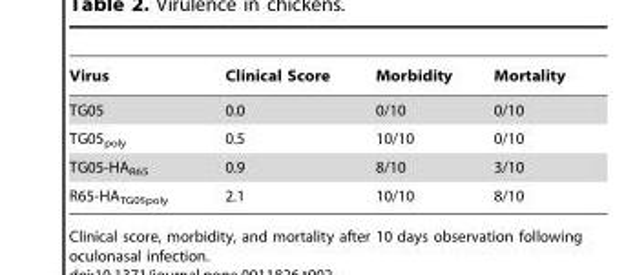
<table><thead><tr><td>Virus</td><td>Clinical Score</td><td>Morbidity</td><td>Mortality</td></tr></thead><tbody><tr><td>TG05</td><td>0.0</td><td>0/10</td><td>0/10</td></tr><tr><td>TG05<sub>poly</sub></td><td>0.5</td><td>10/10</td><td>0/10</td></tr><tr><td>TG05-HA<sub>R65</sub></td><td>0.9</td><td>8/10</td><td>3/10</td></tr><tr><td>R65-HA<sub>TG05poly</sub></td><td>2.1</td><td>10/10</td><td>8/10</td></tr></tbody></table>